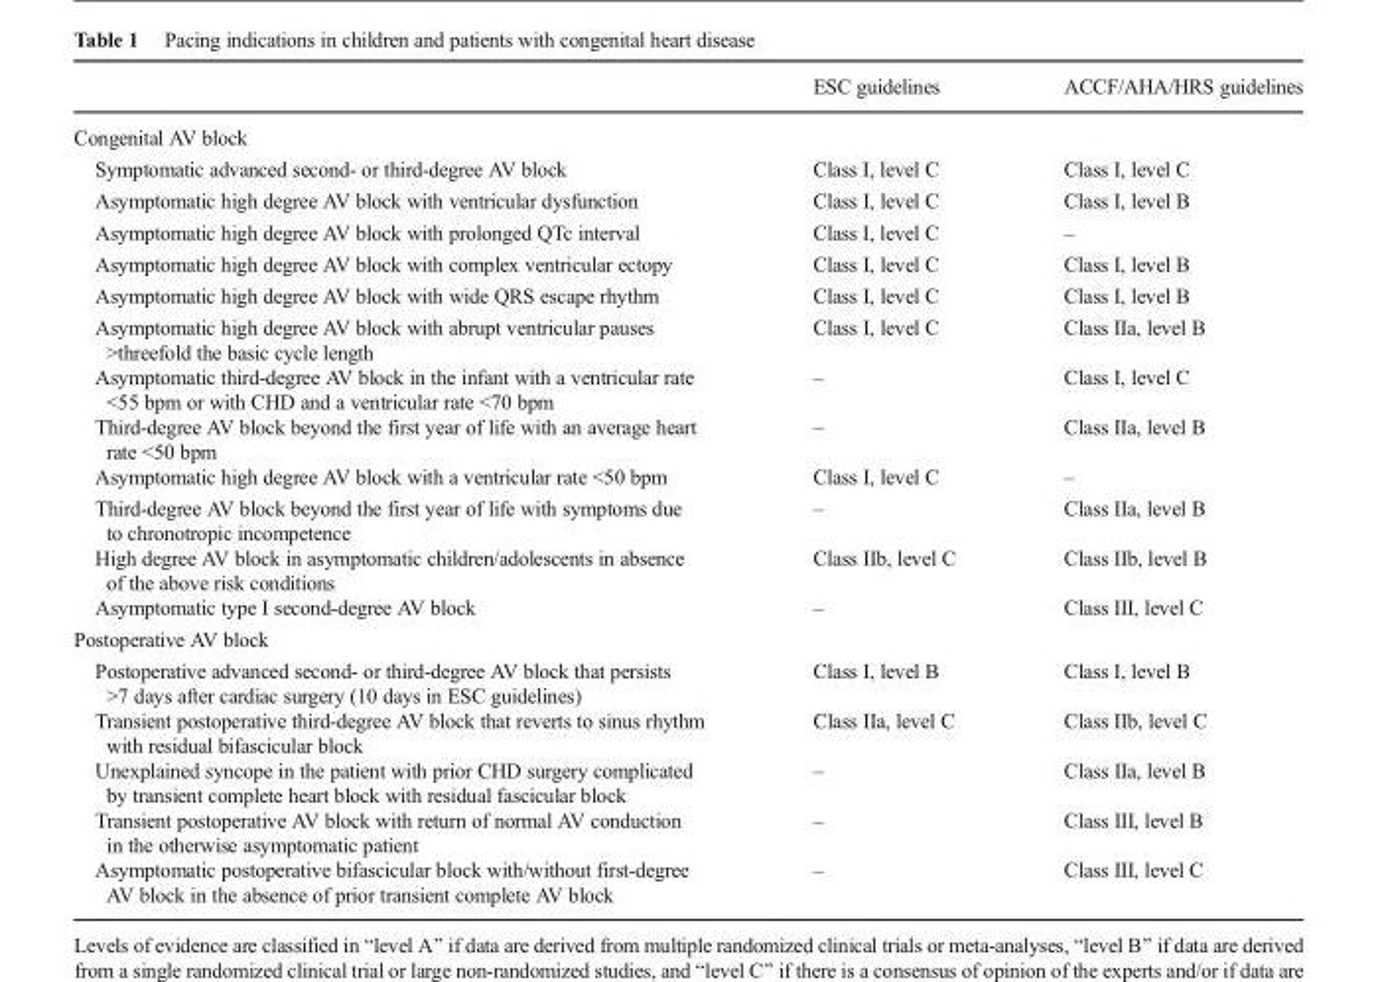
<table><thead><tr><td></td><td>ESC guidelines</td><td>ACCF/AHA/HRS guidelines</td></tr></thead><tbody><tr><td colspan="3">Congenital AV block</td></tr><tr><td>Symptomatic advanced second- or third-degree AV block</td><td>Class I, level C</td><td>Class I, level C</td></tr><tr><td>Asymptomatic high degree AV block with ventricular dysfunction</td><td>Class I, level C</td><td>Class I, level B</td></tr><tr><td>Asymptomatic high degree AV block with prolonged QTc interval</td><td>Class I, level C</td><td>–</td></tr><tr><td>Asymptomatic high degree AV block with complex ventricular ectopy</td><td>Class I, level C</td><td>Class I, level B</td></tr><tr><td>Asymptomatic high degree AV block with wide QRS escape rhythm</td><td>Class I, level C</td><td>Class I, level B</td></tr><tr><td>Asymptomatic high degree AV block with abrupt ventricular pauses &gt;threefold the basic cycle length</td><td>Class I, level C</td><td>Class IIa, level B</td></tr><tr><td>Asymptomatic third-degree AV block in the infant with a ventricular rate &lt;55 bpm or with CHD and a ventricular rate &lt;70 bpm</td><td>–</td><td>Class I, level C</td></tr><tr><td>Third-degree AV block beyond the first year of life with an average heart rate &lt;50 bpm</td><td>–</td><td>Class IIa, level B</td></tr><tr><td>Asymptomatic high degree AV block with a ventricular rate &lt;50 bpm</td><td>Class I, level C</td><td>–</td></tr><tr><td>Third-degree AV block beyond the first year of life with symptoms due to chronotropic incompetence</td><td>–</td><td>Class IIa, level B</td></tr><tr><td>High degree AV block in asymptomatic children/adolescents in absence of the above risk conditions</td><td>Class IIb, level C</td><td>Class IIb, level B</td></tr><tr><td>Asymptomatic type I second-degree AV block</td><td>–</td><td>Class III, level C</td></tr><tr><td colspan="3">Postoperative AV block</td></tr><tr><td>Postoperative advanced second- or third-degree AV block that persists &gt;7 days after cardiac surgery (10 days in ESC guidelines)</td><td>Class I, level B</td><td>Class I, level B</td></tr><tr><td>Transient postoperative third-degree AV block that reverts to sinus rhythm with residual bifascicular block</td><td>Class IIa, level C</td><td>Class IIb, level C</td></tr><tr><td>Unexplained syncope in the patient with prior CHD surgery complicated by transient complete heart block with residual fascicular block</td><td>–</td><td>Class IIa, level B</td></tr><tr><td>Transient postoperative AV block with return of normal AV conduction in the otherwise asymptomatic patient</td><td>–</td><td>Class III, level B</td></tr><tr><td>Asymptomatic postoperative bifascicular block with/without first-degree AV block in the absence of prior transient complete AV block</td><td>–</td><td>Class III, level C</td></tr></tbody></table>